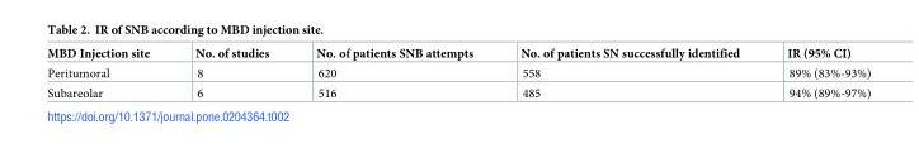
<table><thead><tr><td>MBD Injection site</td><td>No. of studies</td><td>No. of patients SNB attempts</td><td>No. of patients SN successfully identified</td><td>IR (95% CI)</td></tr></thead><tbody><tr><td>Peritumoral</td><td>8</td><td>620</td><td>558</td><td>89% (83%-93%)</td></tr><tr><td>Subareolar</td><td>6</td><td>516</td><td>485</td><td>94% (89%-97%)</td></tr></tbody></table>